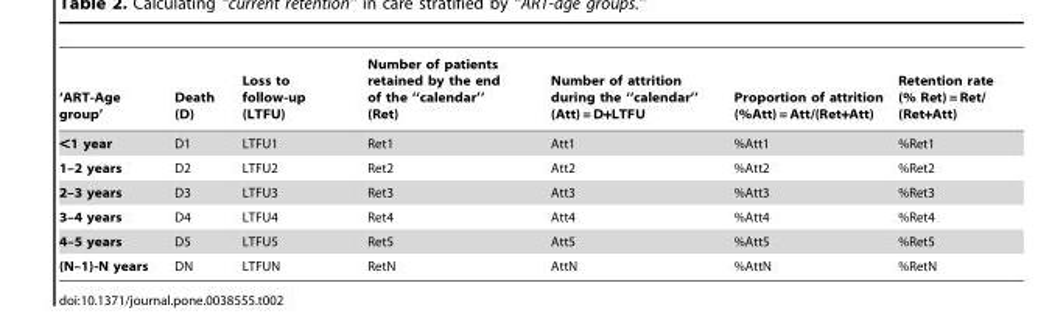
<table><thead><tr><td>‘ART-Age group’</td><td>Death (D)</td><td>Loss to follow-up (LTFU)</td><td>Number of patients retained by the end of the ‘‘calendar’’ (Ret)</td><td>Number of attrition during the ‘‘calendar’’ (Att) = D+LTFU</td><td>Proportion of attrition (%Att) = Att/(Ret+Att)</td><td>Retention rate (% Ret) = Ret/ (Ret+Att)</td></tr></thead><tbody><tr><td>&lt;1 year</td><td>D1</td><td>LTFU1</td><td>Ret1</td><td>Att1</td><td>%Att1</td><td>%Ret1</td></tr><tr><td>1–2 years</td><td>D2</td><td>LTFU2</td><td>Ret2</td><td>Att2</td><td>%Att2</td><td>%Ret2</td></tr><tr><td>2–3 years</td><td>D3</td><td>LTFU3</td><td>Ret3</td><td>Att3</td><td>%Att3</td><td>%Ret3</td></tr><tr><td>3–4 years</td><td>D4</td><td>LTFU4</td><td>Ret4</td><td>Att4</td><td>%Att4</td><td>%Ret4</td></tr><tr><td>4–5 years</td><td>D5</td><td>LTFU5</td><td>Ret5</td><td>Att5</td><td>%Att5</td><td>%Ret5</td></tr><tr><td>(N–1)-N years</td><td>DN</td><td>LTFUN</td><td>RetN</td><td>AttN</td><td>%AttN</td><td>%RetN</td></tr></tbody></table>